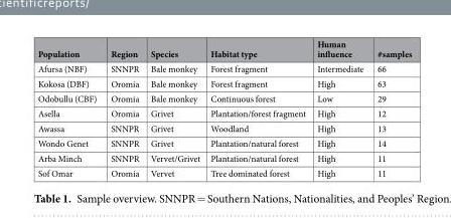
<table><thead><tr><td>Population</td><td>Region</td><td>Species</td><td>Habitat type</td><td>Human influence</td><td>#samples</td></tr></thead><tbody><tr><td>Afursa (NBF)</td><td>SNNPR</td><td>Bale monkey</td><td>Forest fragment</td><td>Intermediate</td><td>66</td></tr><tr><td>Kokosa (DBF)</td><td>Oromia</td><td>Bale monkey</td><td>Forest fragment</td><td>High</td><td>63</td></tr><tr><td>Odobullu (CBF)</td><td>Oromia</td><td>Bale monkey</td><td>Continuous forest</td><td>Low</td><td>29</td></tr><tr><td>Asella</td><td>Oromia</td><td>Grivet</td><td>Plantation/forest fragment</td><td>High</td><td>12</td></tr><tr><td>Awassa</td><td>SNNPR</td><td>Grivet</td><td>Woodland</td><td>High</td><td>13</td></tr><tr><td>Wondo Genet</td><td>SNNPR</td><td>Grivet</td><td>Plantation/natural forest</td><td>High</td><td>14</td></tr><tr><td>Arba Minch</td><td>SNNPR</td><td>Vervet/Grivet</td><td>Plantation/natural forest</td><td>High</td><td>11</td></tr><tr><td>Sof Omar</td><td>Oromia</td><td>Vervet</td><td>Tree dominated forest</td><td>High</td><td>11</td></tr></tbody></table>